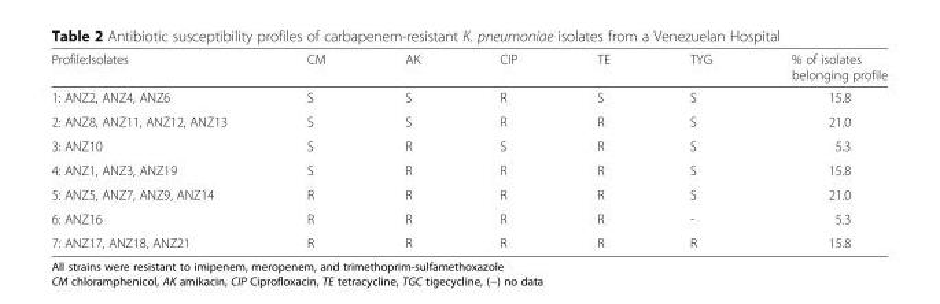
<table><thead><tr><td>Profile:Isolates</td><td>CM</td><td>AK</td><td>CIP</td><td>TE</td><td>TYG</td><td>% of isolates belonging profile</td></tr></thead><tbody><tr><td>1: ANZ2, ANZ4, ANZ6</td><td>S</td><td>S</td><td>R</td><td>S</td><td>S</td><td>15.8</td></tr><tr><td>2: ANZ8, ANZ11, ANZ12, ANZ13</td><td>S</td><td>S</td><td>R</td><td>R</td><td>S</td><td>21.0</td></tr><tr><td>3: ANZ10</td><td>S</td><td>R</td><td>S</td><td>R</td><td>S</td><td>5.3</td></tr><tr><td>4: ANZ1, ANZ3, ANZ19</td><td>S</td><td>R</td><td>R</td><td>R</td><td>S</td><td>15.8</td></tr><tr><td>5: ANZ5, ANZ7, ANZ9, ANZ14</td><td>R</td><td>R</td><td>R</td><td>R</td><td>S</td><td>21.0</td></tr><tr><td>6: ANZ16</td><td>R</td><td>R</td><td>R</td><td>R</td><td>-</td><td>5.3</td></tr><tr><td>7: ANZ17, ANZ18, ANZ21</td><td>R</td><td>R</td><td>R</td><td>R</td><td>R</td><td>15.8</td></tr></tbody></table>